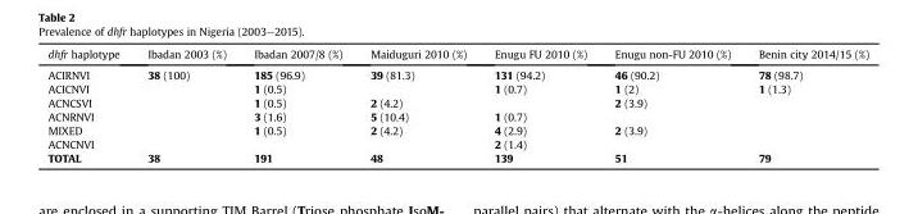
<table><thead><tr><td>dhfr haplotype</td><td>Ibadan 2003 (%)</td><td>Ibadan 2007/8 (%)</td><td>Maiduguri 2010 (%)</td><td>Enugu FU 2010 (%)</td><td>Enugu non-FU 2010 (%)</td><td>Benin city 2014/15 (%)</td></tr></thead><tbody><tr><td>ACIRNVI</td><td>38 (100)</td><td>185 (96.9)</td><td>39 (81.3)</td><td>131 (94.2)</td><td>46 (90.2)</td><td>78 (98.7)</td></tr><tr><td>ACICNVI</td><td></td><td>1 (0.5)</td><td></td><td>1 (0.7)</td><td>1 (2)</td><td>1 (1.3)</td></tr><tr><td>ACNCSVI</td><td></td><td>1 (0.5)</td><td>2 (4.2)</td><td></td><td>2 (3.9)</td><td></td></tr><tr><td>ACNRNVI</td><td></td><td>3 (1.6)</td><td>5 (10.4)</td><td>1 (0.7)</td><td></td><td></td></tr><tr><td>MIXED</td><td></td><td>1 (0.5)</td><td>2 (4.2)</td><td>4 (2.9)</td><td>2 (3.9)</td><td></td></tr><tr><td>ACNCNVI</td><td></td><td></td><td></td><td>2 (1.4)</td><td></td><td></td></tr><tr><td>TOTAL</td><td>38</td><td>191</td><td>48</td><td>139</td><td>51</td><td>79</td></tr></tbody></table>